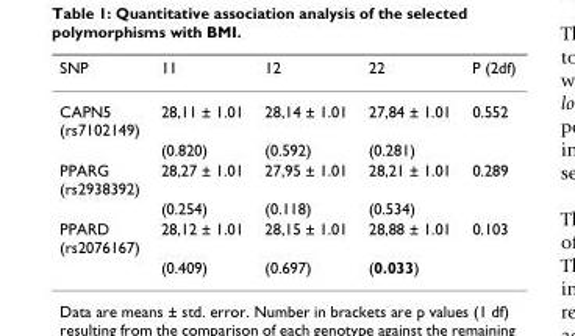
<table><thead><tr><td>SNP</td><td>11</td><td>12</td><td>22</td><td>P (2df)</td></tr></thead><tbody><tr><td rowspan="2">CAPN5 (rs7102149)</td><td>28,11 ± 1.01</td><td>28,14 ± 1.01</td><td>27,84 ± 1.01</td><td>0.552</td></tr><tr><td>(0.820)</td><td>(0.592)</td><td>(0.281)</td><td></td></tr><tr><td rowspan="2">PPARG (rs2938392)</td><td>28,27 ± 1.01</td><td>27,95 ± 1.01</td><td>28,21 ± 1.01</td><td>0.289</td></tr><tr><td>(0.254)</td><td>(0.118)</td><td>(0.534)</td><td></td></tr><tr><td rowspan="2">PPARD (rs2076167)</td><td>28,12 ± 1.01</td><td>28,15 ± 1.01</td><td>28,88 ± 1.01</td><td>0.103</td></tr><tr><td>(0.409)</td><td>(0.697)</td><td>(0.033)</td><td></td></tr></tbody></table>